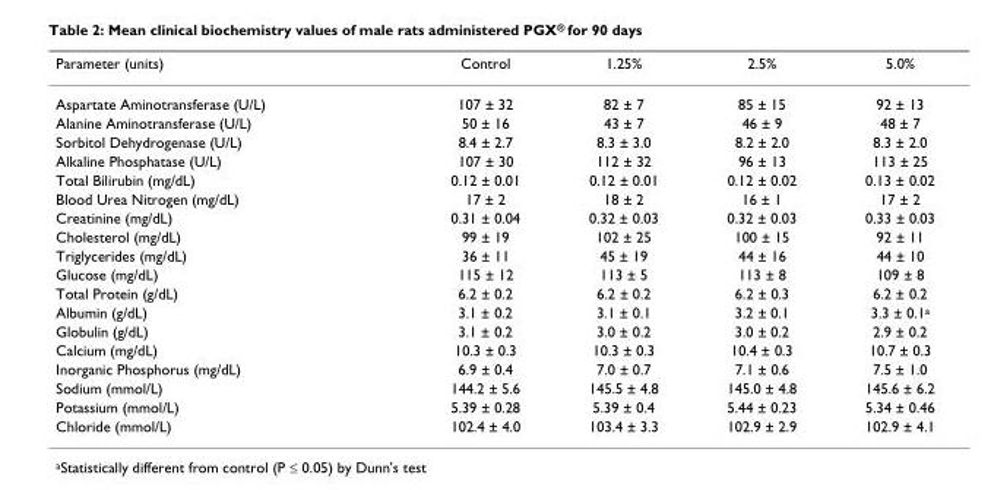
<table><thead><tr><td>Parameter (units)</td><td>Control</td><td>1.25%</td><td>2.5%</td><td>5.0%</td></tr></thead><tbody><tr><td>Aspartate Aminotransferase (U/L)</td><td>107 ± 32</td><td>82 ± 7</td><td>85 ± 15</td><td>92 ± 13</td></tr><tr><td>Alanine Aminotransferase (U/L)</td><td>50 ± 16</td><td>43 ± 7</td><td>46 ± 9</td><td>48 ± 7</td></tr><tr><td>Sorbitol Dehydrogenase (U/L)</td><td>8.4 ± 2.7</td><td>8.3 ± 3.0</td><td>8.2 ± 2.0</td><td>8.3 ± 2.0</td></tr><tr><td>Alkaline Phosphatase (U/L)</td><td>107 ± 30</td><td>112 ± 32</td><td>96 ± 13</td><td>113 ± 25</td></tr><tr><td>Total Bilirubin (mg/dL)</td><td>0.12 ± 0.01</td><td>0.12 ± 0.01</td><td>0.12 ± 0.02</td><td>0.13 ± 0.02</td></tr><tr><td>Blood Urea Nitrogen (mg/dL)</td><td>17 ± 2</td><td>18 ± 2</td><td>16 ± 1</td><td>17 ± 2</td></tr><tr><td>Creatinine (mg/dL)</td><td>0.31 ± 0.04</td><td>0.32 ± 0.03</td><td>0.32 ± 0.03</td><td>0.33 ± 0.03</td></tr><tr><td>Cholesterol (mg/dL)</td><td>99 ± 19</td><td>102 ± 25</td><td>100 ± 15</td><td>92 ± 11</td></tr><tr><td>Triglycerides (mg/dL)</td><td>36 ± 11</td><td>45 ± 19</td><td>44 ± 16</td><td>44 ± 10</td></tr><tr><td>Glucose (mg/dL)</td><td>115 ± 12</td><td>113 ± 5</td><td>113 ± 8</td><td>109 ± 8</td></tr><tr><td>Total Protein (g/dL)</td><td>6.2 ± 0.2</td><td>6.2 ± 0.2</td><td>6.2 ± 0.3</td><td>6.2 ± 0.2</td></tr><tr><td>Albumin (g/dL)</td><td>3.1 ± 0.2</td><td>3.1 ± 0.1</td><td>3.2 ± 0.1</td><td>3.3 ± 0.1<sup>a</sup></td></tr><tr><td>Globulin (g/dL)</td><td>3.1 ± 0.2</td><td>3.0 ± 0.2</td><td>3.0 ± 0.2</td><td>2.9 ± 0.2</td></tr><tr><td>Calcium (mg/dL)</td><td>10.3 ± 0.3</td><td>10.3 ± 0.3</td><td>10.4 ± 0.3</td><td>10.7 ± 0.3</td></tr><tr><td>Inorganic Phosphorus (mg/dL)</td><td>6.9 ± 0.4</td><td>7.0 ± 0.7</td><td>7.1 ± 0.6</td><td>7.5 ± 1.0</td></tr><tr><td>Sodium (mmol/L)</td><td>144.2 ± 5.6</td><td>145.5 ± 4.8</td><td>145.0 ± 4.8</td><td>145.6 ± 6.2</td></tr><tr><td>Potassium (mmol/L)</td><td>5.39 ± 0.28</td><td>5.39 ± 0.4</td><td>5.44 ± 0.23</td><td>5.34 ± 0.46</td></tr><tr><td>Chloride (mmol/L)</td><td>102.4 ± 4.0</td><td>103.4 ± 3.3</td><td>102.9 ± 2.9</td><td>102.9 ± 4.1</td></tr></tbody></table>